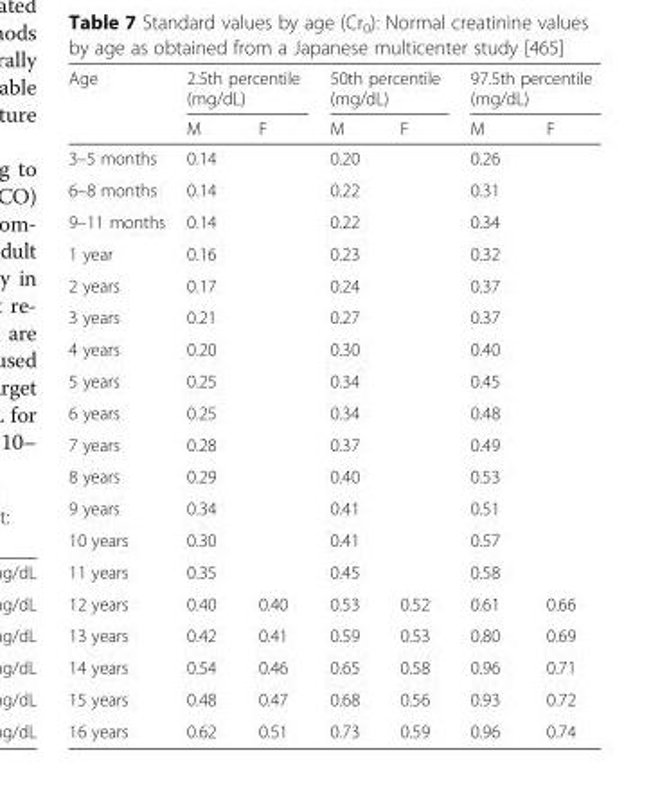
<table><thead><tr><td rowspan="2">Age</td><td colspan="2">2.5th percentile (mg/dL)</td><td colspan="2">50th percentile (mg/dL)</td><td colspan="2">97.5th percentile (mg/dL)</td></tr><tr><td>M</td><td>F</td><td>M</td><td>F</td><td>M</td><td>F</td></tr></thead><tbody><tr><td>3–5 months</td><td colspan="2">0.14</td><td colspan="2">0.20</td><td colspan="2">0.26</td></tr><tr><td>6–8 months</td><td colspan="2">0.14</td><td colspan="2">0.22</td><td colspan="2">0.31</td></tr><tr><td>9–11 months</td><td colspan="2">0.14</td><td colspan="2">0.22</td><td colspan="2">0.34</td></tr><tr><td>1 year</td><td colspan="2">0.16</td><td colspan="2">0.23</td><td colspan="2">0.32</td></tr><tr><td>2 years</td><td colspan="2">0.17</td><td colspan="2">0.24</td><td colspan="2">0.37</td></tr><tr><td>3 years</td><td colspan="2">0.21</td><td colspan="2">0.27</td><td colspan="2">0.37</td></tr><tr><td>4 years</td><td colspan="2">0.20</td><td colspan="2">0.30</td><td colspan="2">0.40</td></tr><tr><td>5 years</td><td colspan="2">0.25</td><td colspan="2">0.34</td><td colspan="2">0.45</td></tr><tr><td>6 years</td><td colspan="2">0.25</td><td colspan="2">0.34</td><td colspan="2">0.48</td></tr><tr><td>7 years</td><td colspan="2">0.28</td><td colspan="2">0.37</td><td colspan="2">0.49</td></tr><tr><td>8 years</td><td colspan="2">0.29</td><td colspan="2">0.40</td><td colspan="2">0.53</td></tr><tr><td>9 years</td><td colspan="2">0.34</td><td colspan="2">0.41</td><td colspan="2">0.51</td></tr><tr><td>10 years</td><td colspan="2">0.30</td><td colspan="2">0.41</td><td colspan="2">0.57</td></tr><tr><td>11 years</td><td colspan="2">0.35</td><td colspan="2">0.45</td><td colspan="2">0.58</td></tr><tr><td>12 years</td><td>0.40</td><td>0.40</td><td>0.53</td><td>0.52</td><td>0.61</td><td>0.66</td></tr><tr><td>13 years</td><td>0.42</td><td>0.41</td><td>0.59</td><td>0.53</td><td>0.80</td><td>0.69</td></tr><tr><td>14 years</td><td>0.54</td><td>0.46</td><td>0.65</td><td>0.58</td><td>0.96</td><td>0.71</td></tr><tr><td>15 years</td><td>0.48</td><td>0.47</td><td>0.68</td><td>0.56</td><td>0.93</td><td>0.72</td></tr><tr><td>16 years</td><td>0.62</td><td>0.51</td><td>0.73</td><td>0.59</td><td>0.96</td><td>0.74</td></tr></tbody></table>